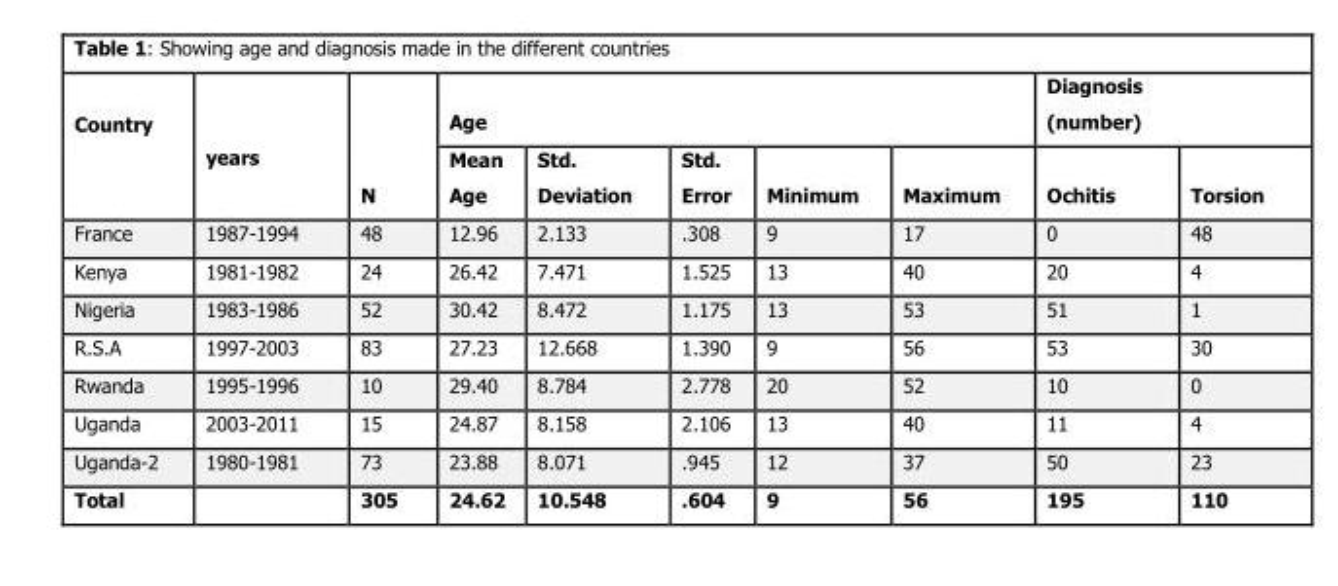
<table><thead><tr><td rowspan="2">Country</td><td rowspan="2">years</td><td rowspan="2">N</td><td colspan="5">Age</td><td colspan="2">Diagnosis (number)</td></tr><tr><td>Mean Age</td><td>Std. Deviation</td><td>Std. Error</td><td>Minimum</td><td>Maximum</td><td>Ochitis</td><td>Torsion</td></tr></thead><tbody><tr><td>France</td><td>1987-1994</td><td>48</td><td>12.96</td><td>2.133</td><td>.308</td><td>9</td><td>17</td><td>0</td><td>48</td></tr><tr><td>Kenya</td><td>1981-1982</td><td>24</td><td>26.42</td><td>7.471</td><td>1.525</td><td>13</td><td>40</td><td>20</td><td>4</td></tr><tr><td>Nigeria</td><td>1983-1986</td><td>52</td><td>30.42</td><td>8.472</td><td>1.175</td><td>13</td><td>53</td><td>51</td><td>1</td></tr><tr><td>R.S.A</td><td>1997-2003</td><td>83</td><td>27.23</td><td>12.668</td><td>1.390</td><td>9</td><td>56</td><td>53</td><td>30</td></tr><tr><td>Rwanda</td><td>1995-1996</td><td>10</td><td>29.40</td><td>8.784</td><td>2.778</td><td>20</td><td>52</td><td>10</td><td>0</td></tr><tr><td>Uganda</td><td>2003-2011</td><td>15</td><td>24.87</td><td>8.158</td><td>2.106</td><td>13</td><td>40</td><td>11</td><td>4</td></tr><tr><td>Uganda-2</td><td>1980-1981</td><td>73</td><td>23.88</td><td>8.071</td><td>.945</td><td>12</td><td>37</td><td>50</td><td>23</td></tr><tr><td>Total</td><td></td><td>305</td><td>24.62</td><td>10.548</td><td>.604</td><td>9</td><td>56</td><td>195</td><td>110</td></tr></tbody></table>